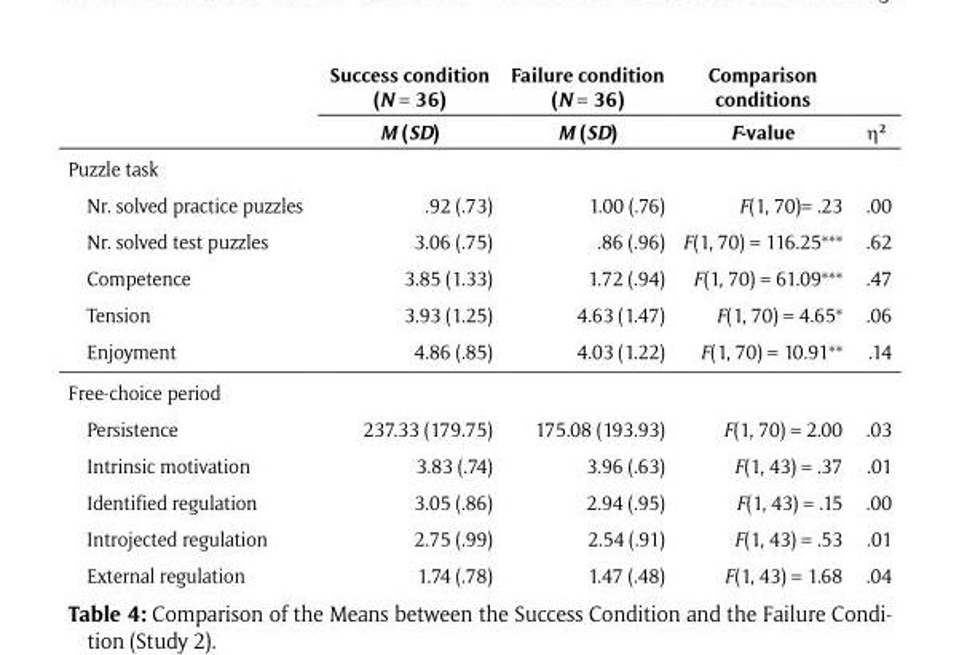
<table><thead><tr><td rowspan="2"></td><td rowspan="2">Success condition (N = 36) M (SD)</td><td rowspan="2">Failure condition (N = 36) M (SD)</td><td rowspan="2">Comparison conditions F-value</td><td rowspan="2">η2</td></tr><tr></tr></thead><tbody><tr><td colspan="5">Puzzle task</td></tr><tr><td>Nr. solved practice puzzles</td><td>.92 (.73)</td><td>1.00 (.76)</td><td>F(1, 70)= .23</td><td>.00</td></tr><tr><td>Nr. solved test puzzles</td><td>3.06 (.75)</td><td>.86 (.96)</td><td>F(1, 70) = 116.25***</td><td>.62</td></tr><tr><td>Competence</td><td>3.85 (1.33)</td><td>1.72 (.94)</td><td>F(1, 70) = 61.09***</td><td>.47</td></tr><tr><td>Tension</td><td>3.93 (1.25)</td><td>4.63 (1.47)</td><td>F(1, 70) = 4.65*</td><td>.06</td></tr><tr><td>Enjoyment</td><td>4.86 (.85)</td><td>4.03 (1.22)</td><td>F(1, 70) = 10.91**</td><td>.14</td></tr><tr><td colspan="5">Free-choice period</td></tr><tr><td>Persistence</td><td>237.33 (179.75)</td><td>175.08 (193.93)</td><td>F(1, 70) = 2.00</td><td>.03</td></tr><tr><td>Intrinsic motivation</td><td>3.83 (.74)</td><td>3.96 (.63)</td><td>F(1, 43) = .37</td><td>.01</td></tr><tr><td>Identified regulation</td><td>3.05 (.86)</td><td>2.94 (.95)</td><td>F(1, 43) = .15</td><td>.00</td></tr><tr><td>Introjected regulation</td><td>2.75 (.99)</td><td>2.54 (.91)</td><td>F(1, 43) = .53</td><td>.01</td></tr><tr><td>External regulation</td><td>1.74 (.78)</td><td>1.47 (.48)</td><td>F(1, 43) = 1.68</td><td>.04</td></tr></tbody></table>